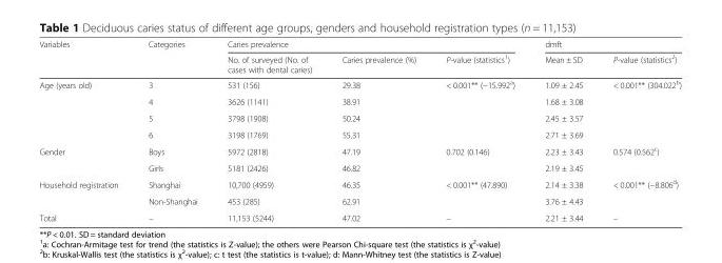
<table><thead><tr><td rowspan="2">Variables</td><td rowspan="2">Categories</td><td colspan="3">Caries prevalence</td><td colspan="2">dmft</td></tr><tr><td>No. of surveyed (No. of cases with dental caries)</td><td>Caries prevalence (%)</td><td>P-value (statistics<sup>1</sup>)</td><td>Mean ± SD</td><td>P-value (statistics<sup>2</sup>)</td></tr></thead><tbody><tr><td rowspan="4">Age (years old)</td><td>3</td><td>531 (156)</td><td>29.38</td><td>&lt; 0.001** (−15.992<sup>a</sup>)</td><td>1.09 ± 2.45</td><td>&lt; 0.001** (304.022<sup>b</sup>)</td></tr><tr><td>4</td><td>3626 (1141)</td><td>38.91</td><td></td><td>1.68 ± 3.08</td><td></td></tr><tr><td>5</td><td>3798 (1908)</td><td>50.24</td><td></td><td>2.45 ± 3.57</td><td></td></tr><tr><td>6</td><td>3198 (1769)</td><td>55.31</td><td></td><td>2.71 ± 3.69</td><td></td></tr><tr><td rowspan="2">Gender</td><td>Boys</td><td>5972 (2818)</td><td>47.19</td><td>0.702 (0.146)</td><td>2.23 ± 3.43</td><td>0.574 (0.562<sup>c</sup>)</td></tr><tr><td>Girls</td><td>5181 (2426)</td><td>46.82</td><td></td><td>2.19 ± 3.45</td><td></td></tr><tr><td rowspan="2">Household registration</td><td>Shanghai</td><td>10,700 (4959)</td><td>46.35</td><td>&lt; 0.001** (47.890)</td><td>2.14 ± 3.38</td><td>&lt; 0.001** (−8.806<sup>d</sup>)</td></tr><tr><td>Non-Shanghai</td><td>453 (285)</td><td>62.91</td><td></td><td>3.76 ± 4.43</td><td></td></tr><tr><td>Total</td><td>–</td><td>11,153 (5244)</td><td>47.02</td><td>–</td><td>2.21 ± 3.44</td><td>–</td></tr></tbody></table>